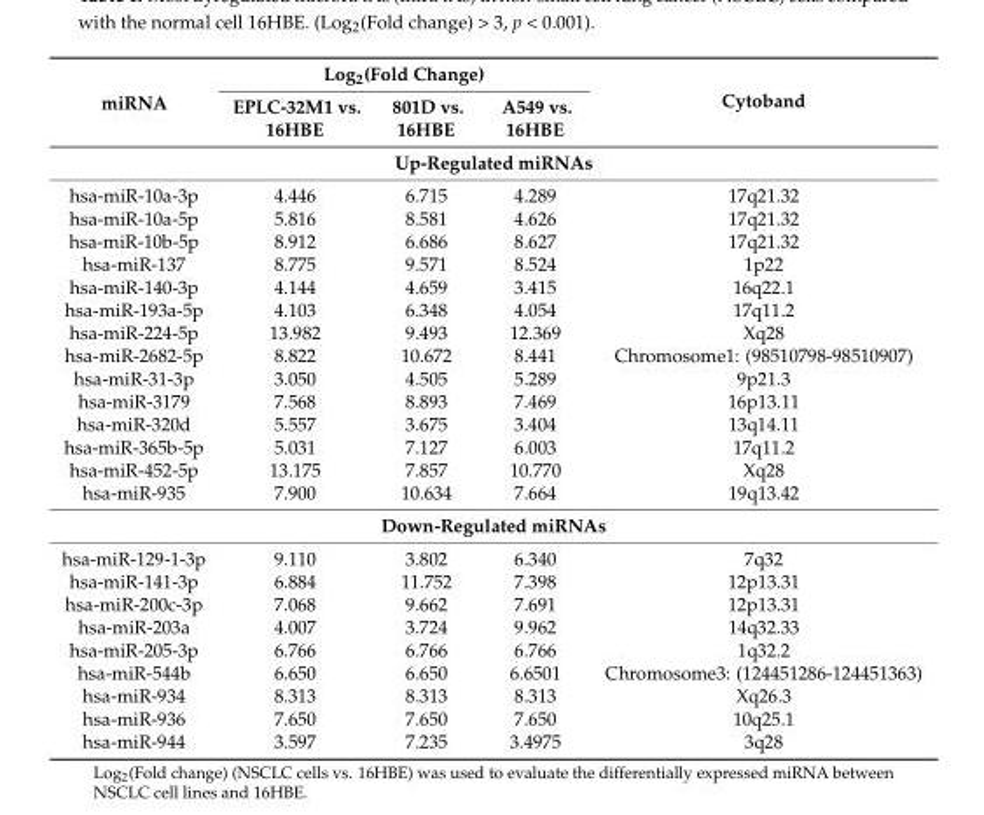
<table><thead><tr><td rowspan="2">miRNA</td><td colspan="3">Log<sub>2</sub>(Fold Change)</td><td rowspan="2">Cytoband</td></tr><tr><td>EPLC-32M1 vs. 16HBE</td><td>801D vs. 16HBE</td><td>A549 vs. 16HBE</td></tr></thead><tbody><tr><td colspan="5">Up-Regulated miRNAs</td></tr><tr><td>hsa-miR-10a-3p</td><td>4.446</td><td>6.715</td><td>4.289</td><td>17q21.32</td></tr><tr><td>hsa-miR-10a-5p</td><td>5.816</td><td>8.581</td><td>4.626</td><td>17q21.32</td></tr><tr><td>hsa-miR-10b-5p</td><td>8.912</td><td>6.686</td><td>8.627</td><td>17q21.32</td></tr><tr><td>hsa-miR-137</td><td>8.775</td><td>9.571</td><td>8.524</td><td>1p22</td></tr><tr><td>hsa-miR-140-3p</td><td>4.144</td><td>4.659</td><td>3.415</td><td>16q22.1</td></tr><tr><td>hsa-miR-193a-5p</td><td>4.103</td><td>6.348</td><td>4.054</td><td>17q11.2</td></tr><tr><td>hsa-miR-224-5p</td><td>13.982</td><td>9.493</td><td>12.369</td><td>Xq28</td></tr><tr><td>hsa-miR-2682-5p</td><td>8.822</td><td>10.672</td><td>8.441</td><td>Chromosome1: (98510798-98510907)</td></tr><tr><td>hsa-miR-31-3p</td><td>3.050</td><td>4.505</td><td>5.289</td><td>9p21.3</td></tr><tr><td>hsa-miR-3179</td><td>7.568</td><td>8.893</td><td>7.469</td><td>16p13.11</td></tr><tr><td>hsa-miR-320d</td><td>5.557</td><td>3.675</td><td>3.404</td><td>13q14.11</td></tr><tr><td>hsa-miR-365b-5p</td><td>5.031</td><td>7.127</td><td>6.003</td><td>17q11.2</td></tr><tr><td>hsa-miR-452-5p</td><td>13.175</td><td>7.857</td><td>10.770</td><td>Xq28</td></tr><tr><td>hsa-miR-935</td><td>7.900</td><td>10.634</td><td>7.664</td><td>19q13.42</td></tr><tr><td colspan="5">Down-Regulated miRNAs</td></tr><tr><td>hsa-miR-129-1-3p</td><td>9.110</td><td>3.802</td><td>6.340</td><td>7q32</td></tr><tr><td>hsa-miR-141-3p</td><td>6.884</td><td>11.752</td><td>7.398</td><td>12p13.31</td></tr><tr><td>hsa-miR-200c-3p</td><td>7.068</td><td>9.662</td><td>7.691</td><td>12p13.31</td></tr><tr><td>hsa-miR-203a</td><td>4.007</td><td>3.724</td><td>9.962</td><td>14q32.33</td></tr><tr><td>hsa-miR-205-3p</td><td>6.766</td><td>6.766</td><td>6.766</td><td>1q32.2</td></tr><tr><td>hsa-miR-544b</td><td>6.650</td><td>6.650</td><td>6.6501</td><td>Chromosome3: (124451286-124451363)</td></tr><tr><td>hsa-miR-934</td><td>8.313</td><td>8.313</td><td>8.313</td><td>Xq26.3</td></tr><tr><td>hsa-miR-936</td><td>7.650</td><td>7.650</td><td>7.650</td><td>10q25.1</td></tr><tr><td>hsa-miR-944</td><td>3.597</td><td>7.235</td><td>3.4975</td><td>3q28</td></tr></tbody></table>